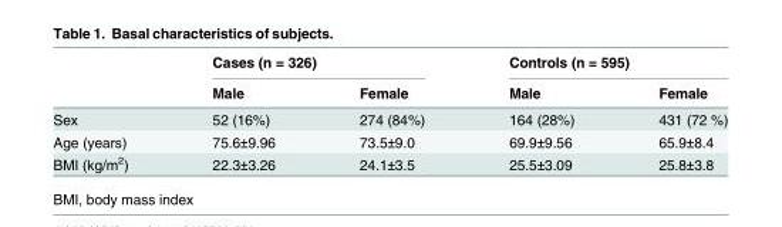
<table><thead><tr><td rowspan="2"></td><td colspan="2">Cases (n = 326)</td><td colspan="2">Controls (n = 595)</td></tr><tr><td>Male</td><td>Female</td><td>Male</td><td>Female</td></tr></thead><tbody><tr><td>Sex</td><td>52 (16%)</td><td>274 (84%)</td><td>164 (28%)</td><td>431 (72 %)</td></tr><tr><td>Age (years)</td><td>75.6±9.96</td><td>73.5±9.0</td><td>69.9±9.56</td><td>65.9±8.4</td></tr><tr><td>BMI (kg/m<sup>2</sup>)</td><td>22.3±3.26</td><td>24.1±3.5</td><td>25.5±3.09</td><td>25.8±3.8</td></tr></tbody></table>